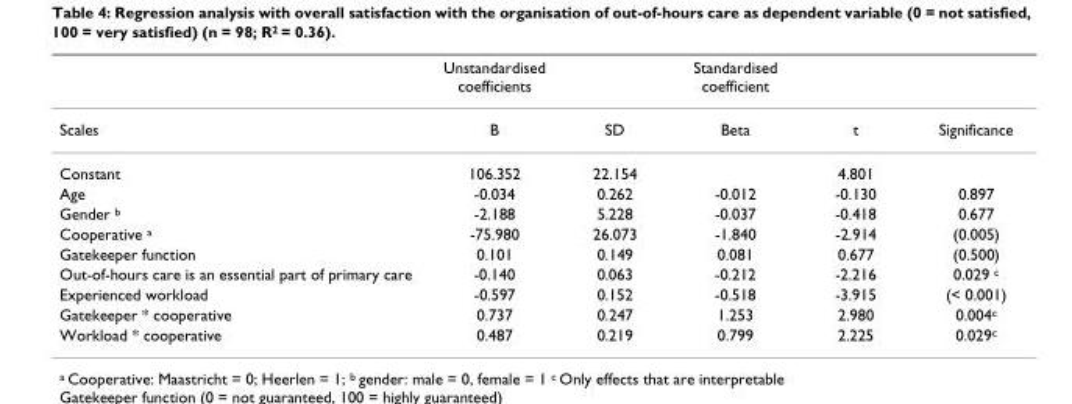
<table><thead><tr><td></td><td>Unstandardised coefficients</td><td></td><td>Standardised coefficient</td><td></td><td></td></tr></thead><tbody><tr><td>Scales</td><td>B</td><td>SD</td><td>Beta</td><td>t</td><td>Significance</td></tr><tr><td>Constant</td><td>106.352</td><td>22.154</td><td></td><td>4.801</td><td></td></tr><tr><td>Age</td><td>-0.034</td><td>0.262</td><td>-0.012</td><td>-0.130</td><td>0.897</td></tr><tr><td>Gender <sup>b</sup></td><td>-2.188</td><td>5.228</td><td>-0.037</td><td>-0.418</td><td>0.677</td></tr><tr><td>Cooperative <sup>a</sup></td><td>-75.980</td><td>26.073</td><td>-1.840</td><td>-2.914</td><td>(0.005)</td></tr><tr><td>Gatekeeper function</td><td>0.101</td><td>0.149</td><td>0.081</td><td>0.677</td><td>(0.500)</td></tr><tr><td>Out-of-hours care is an essential part of primary care</td><td>-0.140</td><td>0.063</td><td>-0.212</td><td>-2.216</td><td>0.029 <sup>c</sup></td></tr><tr><td>Experienced workload</td><td>-0.597</td><td>0.152</td><td>-0.518</td><td>-3.915</td><td>(&lt; 0.001)</td></tr><tr><td>Gatekeeper * cooperative</td><td>0.737</td><td>0.247</td><td>1.253</td><td>2.980</td><td>0.004<sup>c</sup></td></tr><tr><td>Workload * cooperative</td><td>0.487</td><td>0.219</td><td>0.799</td><td>2.225</td><td>0.029<sup>c</sup></td></tr></tbody></table>